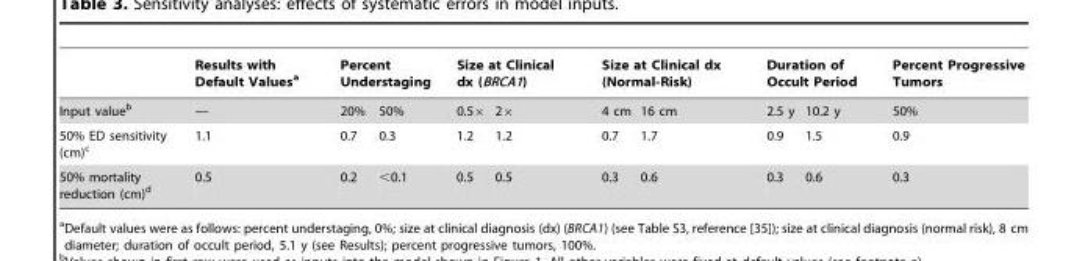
<table><thead><tr><td rowspan="2">Input value<sup>b</sup></td><td rowspan="2">Results with Default Values<sup>a</sup> —</td><td colspan="2">Percent Understaging</td><td colspan="2">Size at Clinical dx (BRCA1)</td><td colspan="2">Size at Clinical dx (Normal-Risk)</td><td colspan="2">Duration of Occult Period</td><td rowspan="2">Percent Progressive Tumors 50%</td></tr><tr><td>20%</td><td>50%</td><td>0.5×</td><td>2×</td><td>4 cm</td><td>16 cm</td><td>2.5 y</td><td>10.2 y</td></tr></thead><tbody><tr><td>50% ED sensitivity (cm)<sup>c</sup></td><td>1.1</td><td>0.7</td><td>0.3</td><td>1.2</td><td>1.2</td><td>0.7</td><td>1.7</td><td>0.9</td><td>1.5</td><td>0.9</td></tr><tr><td>50% mortality reduction (cm)<sup>d</sup></td><td>0.5</td><td>0.2</td><td>&lt;0.1</td><td>0.5</td><td>0.5</td><td>0.3</td><td>0.6</td><td>0.3</td><td>0.6</td><td>0.3</td></tr></tbody></table>